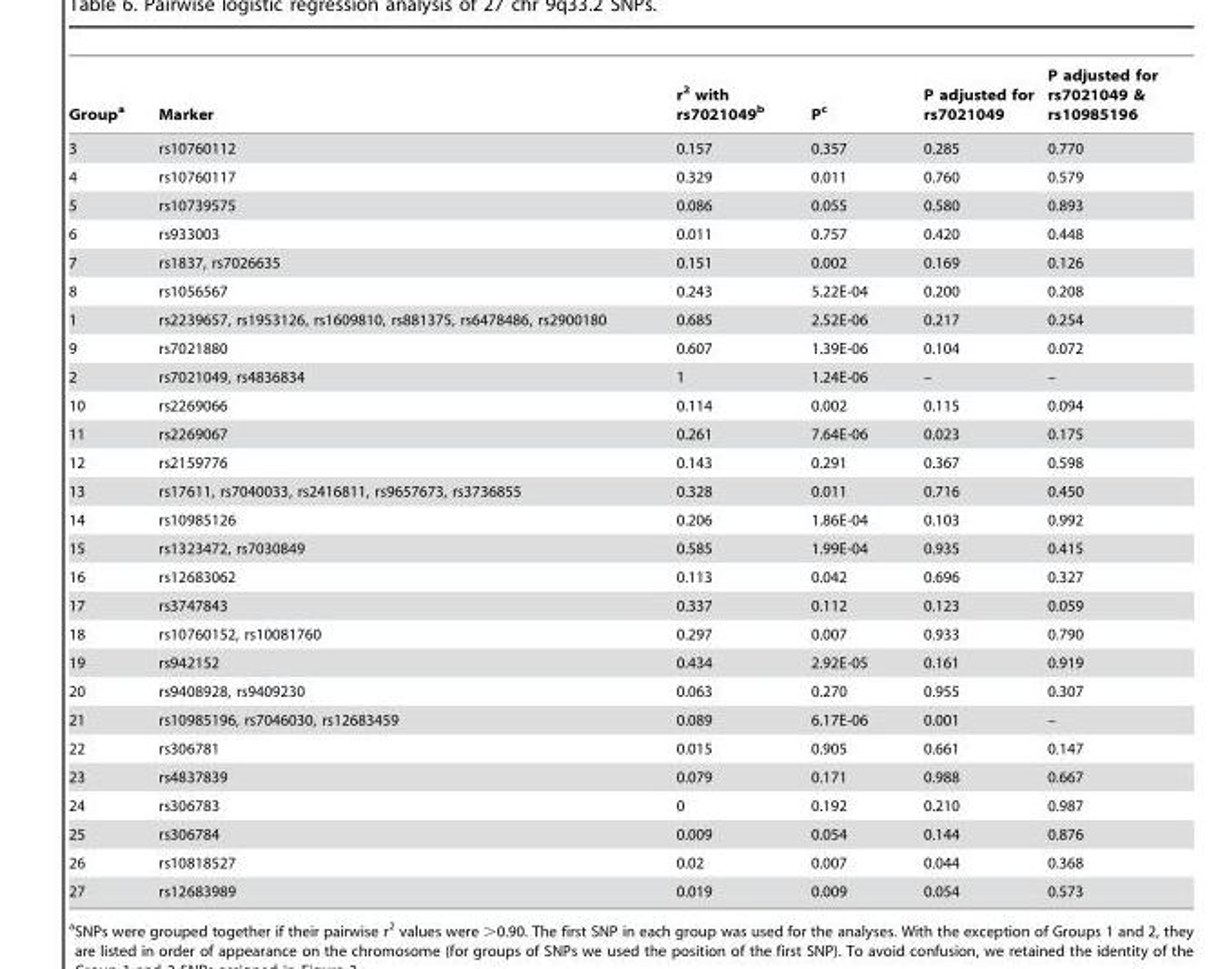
<table><thead><tr><td>Group<sup>a</sup></td><td>Marker</td><td>r<sup>2</sup> with rs7021049<sup>b</sup></td><td>P<sup>c</sup></td><td>P adjusted for rs7021049</td><td>P adjusted for rs7021049 &amp; rs10985196</td></tr></thead><tbody><tr><td>3</td><td>rs10760112</td><td>0.157</td><td>0.357</td><td>0.285</td><td>0.770</td></tr><tr><td>4</td><td>rs10760117</td><td>0.329</td><td>0.011</td><td>0.760</td><td>0.579</td></tr><tr><td>5</td><td>rs10739575</td><td>0.086</td><td>0.055</td><td>0.580</td><td>0.893</td></tr><tr><td>6</td><td>rs933003</td><td>0.011</td><td>0.757</td><td>0.420</td><td>0.448</td></tr><tr><td>7</td><td>rs1837, rs7026635</td><td>0.151</td><td>0.002</td><td>0.169</td><td>0.126</td></tr><tr><td>8</td><td>rs1056567</td><td>0.243</td><td>5.22E-04</td><td>0.200</td><td>0.208</td></tr><tr><td>1</td><td>rs2239657, rs1953126, rs1609810, rs881375, rs6478486, rs2900180</td><td>0.685</td><td>2.52E-06</td><td>0.217</td><td>0.254</td></tr><tr><td>9</td><td>rs7021880</td><td>0.607</td><td>1.39E-06</td><td>0.104</td><td>0.072</td></tr><tr><td>2</td><td>rs7021049, rs4836834</td><td>1</td><td>1.24E-06</td><td>–</td><td>–</td></tr><tr><td>10</td><td>rs2269066</td><td>0.114</td><td>0.002</td><td>0.115</td><td>0.094</td></tr><tr><td>11</td><td>rs2269067</td><td>0.261</td><td>7.64E-06</td><td>0.023</td><td>0.175</td></tr><tr><td>12</td><td>rs2159776</td><td>0.143</td><td>0.291</td><td>0.367</td><td>0.598</td></tr><tr><td>13</td><td>rs17611, rs7040033, rs2416811, rs9657673, rs3736855</td><td>0.328</td><td>0.011</td><td>0.716</td><td>0.450</td></tr><tr><td>14</td><td>rs10985126</td><td>0.206</td><td>1.86E-04</td><td>0.103</td><td>0.992</td></tr><tr><td>15</td><td>rs1323472, rs7030849</td><td>0.585</td><td>1.99E-04</td><td>0.935</td><td>0.415</td></tr><tr><td>16</td><td>rs12683062</td><td>0.113</td><td>0.042</td><td>0.696</td><td>0.327</td></tr><tr><td>17</td><td>rs3747843</td><td>0.337</td><td>0.112</td><td>0.123</td><td>0.059</td></tr><tr><td>18</td><td>rs10760152, rs10081760</td><td>0.297</td><td>0.007</td><td>0.933</td><td>0.790</td></tr><tr><td>19</td><td>rs942152</td><td>0.434</td><td>2.92E-05</td><td>0.161</td><td>0.919</td></tr><tr><td>20</td><td>rs9408928, rs9409230</td><td>0.063</td><td>0.270</td><td>0.955</td><td>0.307</td></tr><tr><td>21</td><td>rs10985196, rs7046030, rs12683459</td><td>0.089</td><td>6.17E-06</td><td>0.001</td><td>–</td></tr><tr><td>22</td><td>rs306781</td><td>0.015</td><td>0.905</td><td>0.661</td><td>0.147</td></tr><tr><td>23</td><td>rs4837839</td><td>0.079</td><td>0.171</td><td>0.988</td><td>0.667</td></tr><tr><td>24</td><td>rs306783</td><td>0</td><td>0.192</td><td>0.210</td><td>0.987</td></tr><tr><td>25</td><td>rs306784</td><td>0.009</td><td>0.054</td><td>0.144</td><td>0.876</td></tr><tr><td>26</td><td>rs10818527</td><td>0.02</td><td>0.007</td><td>0.044</td><td>0.368</td></tr><tr><td>27</td><td>rs12683989</td><td>0.019</td><td>0.009</td><td>0.054</td><td>0.573</td></tr></tbody></table>